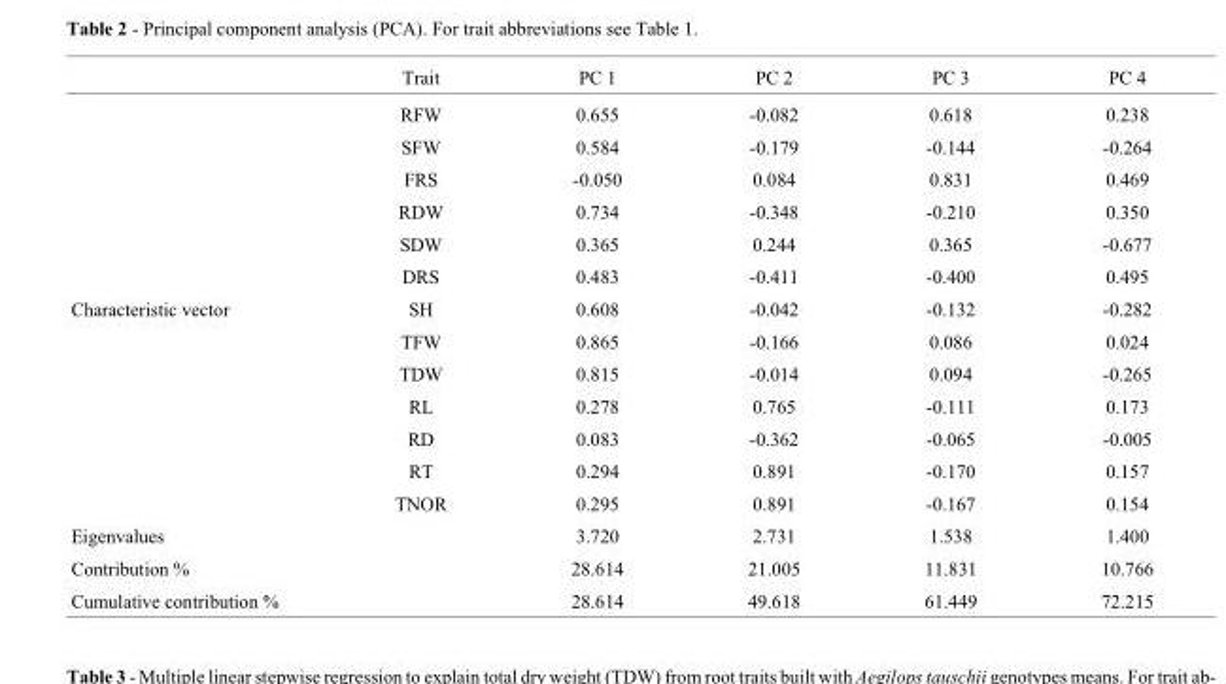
<table><thead><tr><td></td><td>Trait</td><td>PC 1</td><td>PC 2</td><td>PC 3</td><td>PC 4</td></tr></thead><tbody><tr><td></td><td>RFW</td><td>0.655</td><td>-0.082</td><td>0.618</td><td>0.238</td></tr><tr><td></td><td>SFW</td><td>0.584</td><td>-0.179</td><td>-0.144</td><td>-0.264</td></tr><tr><td></td><td>FRS</td><td>-0.050</td><td>0.084</td><td>0.831</td><td>0.469</td></tr><tr><td></td><td>RDW</td><td>0.734</td><td>-0.348</td><td>-0.210</td><td>0.350</td></tr><tr><td></td><td>SDW</td><td>0.365</td><td>0.244</td><td>0.365</td><td>-0.677</td></tr><tr><td></td><td>DRS</td><td>0.483</td><td>-0.411</td><td>-0.400</td><td>0.495</td></tr><tr><td rowspan="7">Characteristic vector</td><td>SH</td><td>0.608</td><td>-0.042</td><td>-0.132</td><td>-0.282</td></tr><tr><td>TFW</td><td>0.865</td><td>-0.166</td><td>0.086</td><td>0.024</td></tr><tr><td>TDW</td><td>0.815</td><td>-0.014</td><td>0.094</td><td>-0.265</td></tr><tr><td>RL</td><td>0.278</td><td>0.765</td><td>-0.111</td><td>0.173</td></tr><tr><td>RD</td><td>0.083</td><td>-0.362</td><td>-0.065</td><td>-0.005</td></tr><tr><td>RT</td><td>0.294</td><td>0.891</td><td>-0.170</td><td>0.157</td></tr><tr><td>TNOR</td><td>0.295</td><td>0.891</td><td>-0.167</td><td>0.154</td></tr><tr><td>Eigenvalues</td><td></td><td>3.720</td><td>2.731</td><td>1.538</td><td>1.400</td></tr><tr><td>Contribution %</td><td></td><td>28.614</td><td>21.005</td><td>11.831</td><td>10.766</td></tr><tr><td>Cumulative contribution %</td><td></td><td>28.614</td><td>49.618</td><td>61.449</td><td>72.215</td></tr></tbody></table>